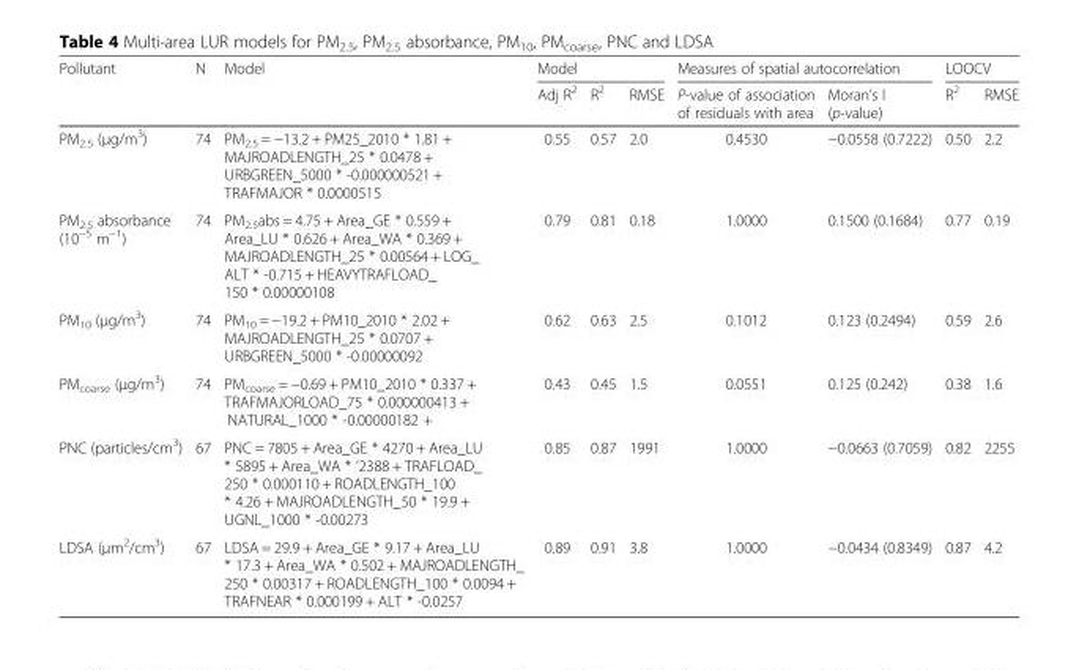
<table><thead><tr><td rowspan="2">Pollutant</td><td rowspan="2">N</td><td rowspan="2">Model</td><td colspan="3">Model</td><td colspan="2">Measures of spatial autocorrelation</td><td colspan="2">LOOCV</td></tr><tr><td>Adj R<sup>2</sup></td><td>R<sup>2</sup></td><td>RMSE</td><td>P-value of association of residuals with area</td><td>Moran’s I (p-value)</td><td>R<sup>2</sup></td><td>RMSE</td></tr></thead><tbody><tr><td>PM<sub>2.5</sub> (μg/m<sup>3</sup>)</td><td>74</td><td>PM<sub>2.5</sub> = −13.2 + PM25_2010 * 1.81 + MAJROADLENGTH_25 * 0.0478 + URBGREEN_5000 * -0.000000521 + TRAFMAJOR * 0.0000515</td><td>0.55</td><td>0.57</td><td>2.0</td><td>0.4530</td><td>−0.0558 (0.7222)</td><td>0.50</td><td>2.2</td></tr><tr><td>PM<sub>2.5</sub> absorbance (10<sup>−5</sup> m<sup>−1</sup>)</td><td>74</td><td>PM<sub>2.5</sub>abs = 4.75 + Area_GE * 0.559 + Area_LU * 0.626 + Area_WA * 0.369 + MAJROADLENGTH_25 * 0.00564 + LOG_ ALT * -0.715 + HEAVYTRAFLOAD_ 150 * 0.00000108</td><td>0.79</td><td>0.81</td><td>0.18</td><td>1.0000</td><td>0.1500 (0.1684)</td><td>0.77</td><td>0.19</td></tr><tr><td>PM<sub>10</sub> (μg/m<sup>3</sup>)</td><td>74</td><td>PM<sub>10</sub> = −19.2 + PM10_2010 * 2.02 + MAJROADLENGTH_25 * 0.0707 + URBGREEN_5000 * -0.00000092</td><td>0.62</td><td>0.63</td><td>2.5</td><td>0.1012</td><td>0.123 (0.2494)</td><td>0.59</td><td>2.6</td></tr><tr><td>PM<sub>coarse</sub> (μg/m<sup>3</sup>)</td><td>74</td><td>PM<sub>coarse</sub> = −0.69 + PM10_2010 * 0.337 + TRAFMAJORLOAD_75 * 0.000000413 + NATURAL_1000 * -0.00000182 +</td><td>0.43</td><td>0.45</td><td>1.5</td><td>0.0551</td><td>0.125 (0.242)</td><td>0.38</td><td>1.6</td></tr><tr><td>PNC (particles/cm<sup>3</sup>)</td><td>67</td><td>PNC = 7805 + Area_GE * 4270 + Area_LU * 5895 + Area_WA * ‘2388 + TRAFLOAD_ 250 * 0.000110 + ROADLENGTH_100 * 4.26 + MAJROADLENGTH_50 * 19.9 + UGNL_1000 * -0.00273</td><td>0.85</td><td>0.87</td><td>1991</td><td>1.0000</td><td>−0.0663 (0.7059)</td><td>0.82</td><td>2255</td></tr><tr><td>LDSA (μm<sup>2</sup>/cm<sup>3</sup>)</td><td>67</td><td>LDSA = 29.9 + Area_GE * 9.17 + Area_LU * 17.3 + Area_WA * 0.502 + MAJROADLENGTH_ 250 * 0.00317 + ROADLENGTH_100 * 0.0094 + TRAFNEAR * 0.000199 + ALT * -0.0257</td><td>0.89</td><td>0.91</td><td>3.8</td><td>1.0000</td><td>−0.0434 (0.8349)</td><td>0.87</td><td>4.2</td></tr></tbody></table>